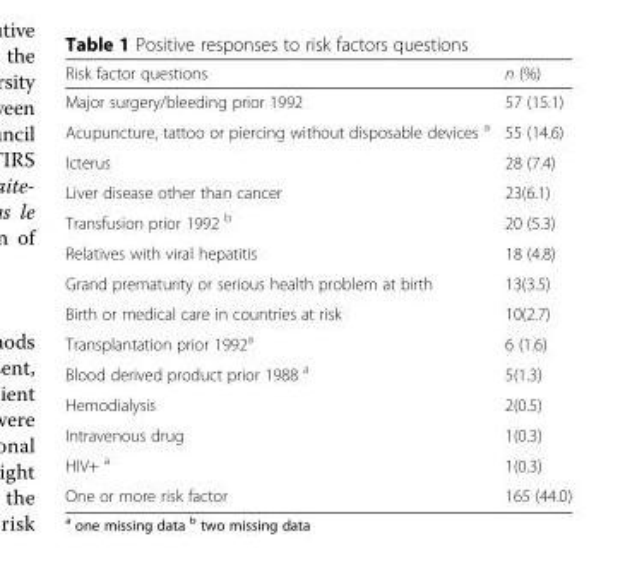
<table><thead><tr><td>Risk factor questions</td><td>n (%)</td></tr></thead><tbody><tr><td>Major surgery/bleeding prior 1992</td><td>57 (15.1)</td></tr><tr><td>Acupuncture, tattoo or piercing without disposable devices <sup>a</sup></td><td>55 (14.6)</td></tr><tr><td>Icterus</td><td>28 (7.4)</td></tr><tr><td>Liver disease other than cancer</td><td>23(6.1)</td></tr><tr><td>Transfusion prior 1992 <sup>b</sup></td><td>20 (5.3)</td></tr><tr><td>Relatives with viral hepatitis</td><td>18 (4.8)</td></tr><tr><td>Grand prematurity or serious health problem at birth</td><td>13(3.5)</td></tr><tr><td>Birth or medical care in countries at risk</td><td>10(2.7)</td></tr><tr><td>Transplantation prior 1992<sup>a</sup></td><td>6 (1.6)</td></tr><tr><td>Blood derived product prior 1988 <sup>a</sup></td><td>5(1.3)</td></tr><tr><td>Hemodialysis</td><td>2(0.5)</td></tr><tr><td>Intravenous drug</td><td>1(0.3)</td></tr><tr><td>HIV+ <sup>a</sup></td><td>1(0.3)</td></tr><tr><td>One or more risk factor</td><td>165 (44.0)</td></tr></tbody></table>